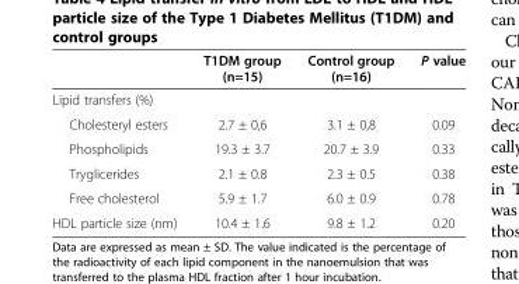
<table><thead><tr><td></td><td>T1DM group (n=15)</td><td>Control group (n=16)</td><td>P value</td></tr></thead><tbody><tr><td colspan="4">Lipid transfers (%)</td></tr><tr><td>Cholesteryl esters</td><td>2.7 ± 0,6</td><td>3.1 ± 0,8</td><td>0.09</td></tr><tr><td>Phospholipids</td><td>19.3 ± 3.7</td><td>20.7 ± 3.9</td><td>0.33</td></tr><tr><td>Tryglicerides</td><td>2.1 ± 0.8</td><td>2.3 ± 0.5</td><td>0.38</td></tr><tr><td>Free cholesterol</td><td>5.9 ± 1.7</td><td>6.0 ± 0.9</td><td>0.78</td></tr><tr><td>HDL particle size (nm)</td><td>10.4 ± 1.6</td><td>9.8 ± 1.2</td><td>0.20</td></tr></tbody></table>